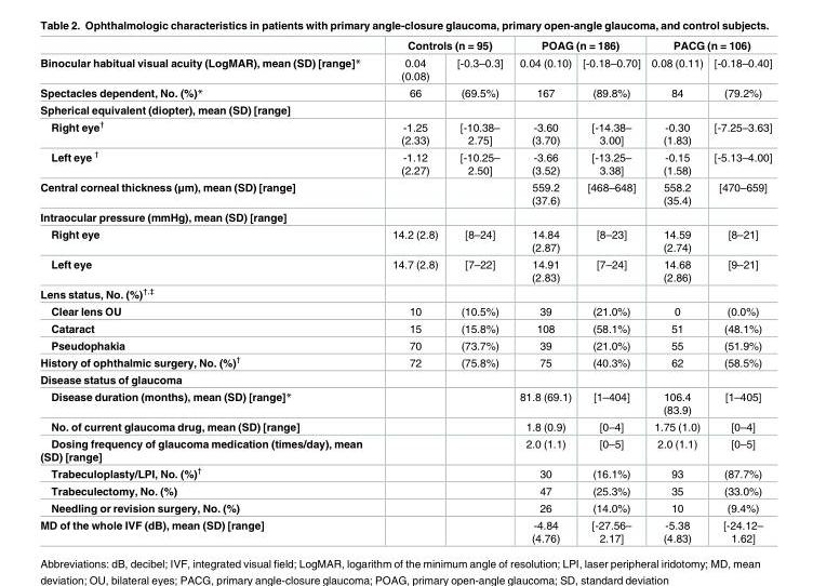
<table><thead><tr><td rowspan="2">Binocular habitual visual acuity (LogMAR), mean (SD) [range]*</td><td colspan="2">Controls (n = 95)</td><td colspan="2">POAG (n = 186)</td><td colspan="2">PACG (n = 106)</td></tr><tr><td>0.04 (0.08)</td><td>[-0.3–0.3]</td><td>0.04 (0.10)</td><td>[-0.18–0.70]</td><td>0.08 (0.11)</td><td>[-0.18–0.40]</td></tr></thead><tbody><tr><td>Spectacles dependent, No. (%)*</td><td>66</td><td>(69.5%)</td><td>167</td><td>(89.8%)</td><td>84</td><td>(79.2%)</td></tr><tr><td colspan="7">Spherical equivalent (diopter), mean (SD) [range]</td></tr><tr><td>Right eye<sup>†</sup></td><td>-1.25 (2.33)</td><td>[-10.38– 2.75]</td><td>-3.60 (3.70)</td><td>[-14.38– 3.00]</td><td>-0.30 (1.83)</td><td>[-7.25–3.63]</td></tr><tr><td>Left eye <sup>†</sup></td><td>-1.12 (2.27)</td><td>[-10.25– 2.50]</td><td>-3.66 (3.52)</td><td>[-13.25– 3.38]</td><td>-0.15 (1.58)</td><td>[-5.13–4.00]</td></tr><tr><td>Central corneal thickness (μm), mean (SD) [range]</td><td></td><td></td><td>559.2 (37.6)</td><td>[468–648]</td><td>558.2 (35.4)</td><td>[470–659]</td></tr><tr><td colspan="7">Intraocular pressure (mmHg), mean (SD) [range]</td></tr><tr><td>Right eye</td><td>14.2 (2.8)</td><td>[8–24]</td><td>14.84 (2.87)</td><td>[8–23]</td><td>14.59 (2.74)</td><td>[8–21]</td></tr><tr><td>Left eye</td><td>14.7 (2.8)</td><td>[7–22]</td><td>14.91 (2.83)</td><td>[7–24]</td><td>14.68 (2.86)</td><td>[9–21]</td></tr><tr><td colspan="7">Lens status, No. (%)<sup>†,‡</sup></td></tr><tr><td>Clear lens OU</td><td>10</td><td>(10.5%)</td><td>39</td><td>(21.0%)</td><td>0</td><td>(0.0%)</td></tr><tr><td>Cataract</td><td>15</td><td>(15.8%)</td><td>108</td><td>(58.1%)</td><td>51</td><td>(48.1%)</td></tr><tr><td>Pseudophakia</td><td>70</td><td>(73.7%)</td><td>39</td><td>(21.0%)</td><td>55</td><td>(51.9%)</td></tr><tr><td>History of ophthalmic surgery, No. (%)<sup>†</sup></td><td>72</td><td>(75.8%)</td><td>75</td><td>(40.3%)</td><td>62</td><td>(58.5%)</td></tr><tr><td colspan="7">Disease status of glaucoma</td></tr><tr><td>Disease duration (months), mean (SD) [range]*</td><td></td><td></td><td>81.8 (69.1)</td><td>[1–404]</td><td>106.4 (83.9)</td><td>[1–405]</td></tr><tr><td>No. of current glaucoma drug, mean (SD) [range]</td><td></td><td></td><td>1.8 (0.9)</td><td>[0–4]</td><td>1.75 (1.0)</td><td>[0–4]</td></tr><tr><td>Dosing frequency of glaucoma medication (times/day), mean (SD) [range]</td><td></td><td></td><td>2.0 (1.1)</td><td>[0–5]</td><td>2.0 (1.1)</td><td>[0–5]</td></tr><tr><td>Trabeculoplasty/LPI, No. (%)<sup>†</sup></td><td></td><td></td><td>30</td><td>(16.1%)</td><td>93</td><td>(87.7%)</td></tr><tr><td>Trabeculectomy, No. (%)</td><td></td><td></td><td>47</td><td>(25.3%)</td><td>35</td><td>(33.0%)</td></tr><tr><td>Needling or revision surgery, No. (%)</td><td></td><td></td><td>26</td><td>(14.0%)</td><td>10</td><td>(9.4%)</td></tr><tr><td>MD of the whole IVF (dB), mean (SD) [range]</td><td></td><td></td><td>-4.84 (4.76)</td><td>[-27.56– 2.17]</td><td>-5.38 (4.83)</td><td>[-24.12– 1.62]</td></tr></tbody></table>